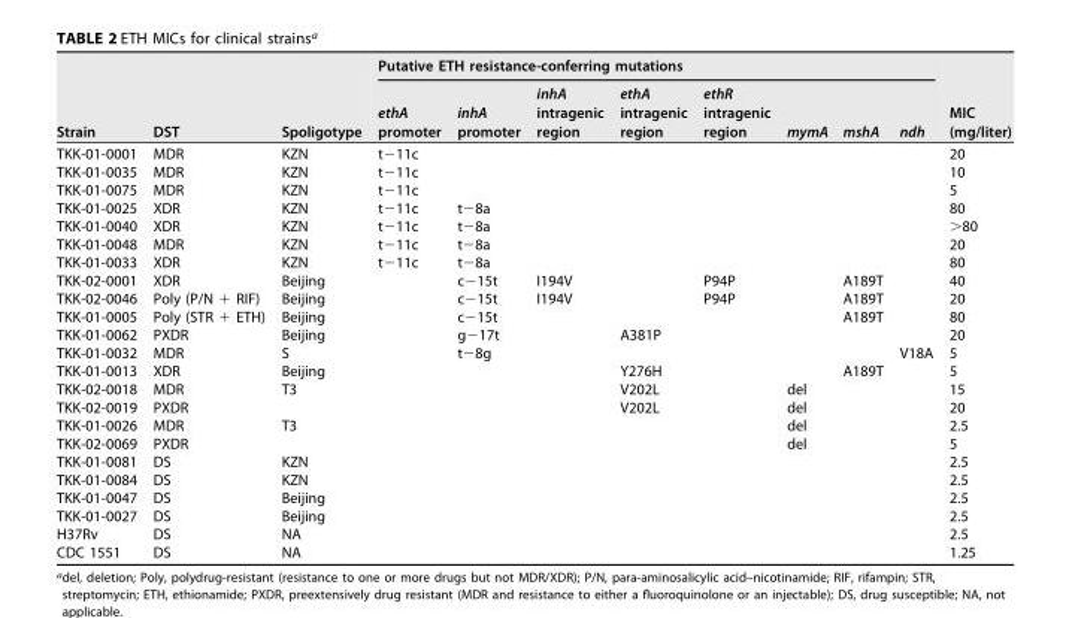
<table><thead><tr><td rowspan="2">Strain</td><td rowspan="2">DST</td><td rowspan="2">Spoligotype</td><td colspan="8">Putative ETH resistance-conferring mutations</td><td rowspan="2">MIC (mg/liter)</td></tr><tr><td>ethA promoter</td><td>inhA promoter</td><td>inhA intragenic region</td><td>ethA intragenic region</td><td>ethR intragenic region</td><td>mymA</td><td>mshA</td><td>ndh</td></tr></thead><tbody><tr><td>TKK-01-0001</td><td>MDR</td><td>KZN</td><td>t−11c</td><td></td><td></td><td></td><td></td><td></td><td></td><td></td><td>20</td></tr><tr><td>TKK-01-0035</td><td>MDR</td><td>KZN</td><td>t−11c</td><td></td><td></td><td></td><td></td><td></td><td></td><td></td><td>10</td></tr><tr><td>TKK-01-0075</td><td>MDR</td><td>KZN</td><td>t−11c</td><td></td><td></td><td></td><td></td><td></td><td></td><td></td><td>5</td></tr><tr><td>TKK-01-0025</td><td>XDR</td><td>KZN</td><td>t−11c</td><td>t−8a</td><td></td><td></td><td></td><td></td><td></td><td></td><td>80</td></tr><tr><td>TKK-01-0040</td><td>XDR</td><td>KZN</td><td>t−11c</td><td>t−8a</td><td></td><td></td><td></td><td></td><td></td><td></td><td>&gt;80</td></tr><tr><td>TKK-01-0048</td><td>MDR</td><td>KZN</td><td>t−11c</td><td>t−8a</td><td></td><td></td><td></td><td></td><td></td><td></td><td>20</td></tr><tr><td>TKK-01-0033</td><td>XDR</td><td>KZN</td><td>t−11c</td><td>t−8a</td><td></td><td></td><td></td><td></td><td></td><td></td><td>80</td></tr><tr><td>TKK-02-0001</td><td>XDR</td><td>Beijing</td><td></td><td>c−15t</td><td>I194V</td><td></td><td>P94P</td><td></td><td>A189T</td><td></td><td>40</td></tr><tr><td>TKK-02-0046</td><td>Poly (P/N + RIF)</td><td>Beijing</td><td></td><td>c−15t</td><td>I194V</td><td></td><td>P94P</td><td></td><td>A189T</td><td></td><td>20</td></tr><tr><td>TKK-01-0005</td><td>Poly (STR + ETH)</td><td>Beijing</td><td></td><td>c−15t</td><td></td><td></td><td></td><td></td><td>A189T</td><td></td><td>80</td></tr><tr><td>TKK-01-0062</td><td>PXDR</td><td>Beijing</td><td></td><td>g−17t</td><td></td><td>A381P</td><td></td><td></td><td></td><td></td><td>20</td></tr><tr><td>TKK-01-0032</td><td>MDR</td><td>S</td><td></td><td>t−8g</td><td></td><td></td><td></td><td></td><td></td><td>V18A</td><td>5</td></tr><tr><td>TKK-01-0013</td><td>XDR</td><td>Beijing</td><td></td><td></td><td></td><td>Y276H</td><td></td><td></td><td>A189T</td><td></td><td>5</td></tr><tr><td>TKK-02-0018</td><td>MDR</td><td>T3</td><td></td><td></td><td></td><td>V202L</td><td></td><td>del</td><td></td><td></td><td>15</td></tr><tr><td>TKK-02-0019</td><td>PXDR</td><td></td><td></td><td></td><td></td><td>V202L</td><td></td><td>del</td><td></td><td></td><td>20</td></tr><tr><td>TKK-01-0026</td><td>MDR</td><td>T3</td><td></td><td></td><td></td><td></td><td></td><td>del</td><td></td><td></td><td>2.5</td></tr><tr><td>TKK-02-0069</td><td>PXDR</td><td></td><td></td><td></td><td></td><td></td><td></td><td>del</td><td></td><td></td><td>5</td></tr><tr><td>TKK-01-0081</td><td>DS</td><td>KZN</td><td></td><td></td><td></td><td></td><td></td><td></td><td></td><td></td><td>2.5</td></tr><tr><td>TKK-01-0084</td><td>DS</td><td>KZN</td><td></td><td></td><td></td><td></td><td></td><td></td><td></td><td></td><td>2.5</td></tr><tr><td>TKK-01-0047</td><td>DS</td><td>Beijing</td><td></td><td></td><td></td><td></td><td></td><td></td><td></td><td></td><td>2.5</td></tr><tr><td>TKK-01-0027</td><td>DS</td><td>Beijing</td><td></td><td></td><td></td><td></td><td></td><td></td><td></td><td></td><td>2.5</td></tr><tr><td>H37Rv</td><td>DS</td><td>NA</td><td></td><td></td><td></td><td></td><td></td><td></td><td></td><td></td><td>2.5</td></tr><tr><td>CDC 1551</td><td>DS</td><td>NA</td><td></td><td></td><td></td><td></td><td></td><td></td><td></td><td></td><td>1.25</td></tr></tbody></table>